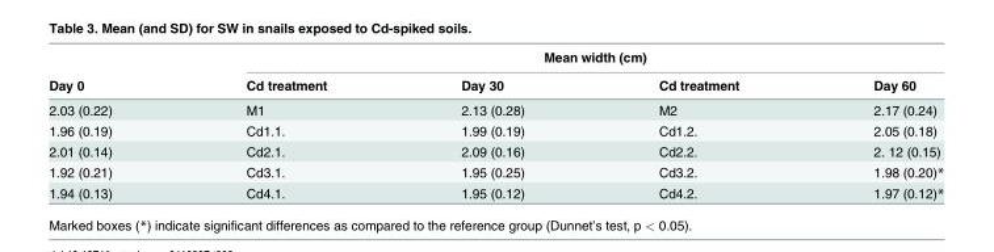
<table><thead><tr><td rowspan="2">Day 0</td><td colspan="4">Mean width (cm)</td></tr><tr><td>Cd treatment</td><td>Day 30</td><td>Cd treatment</td><td>Day 60</td></tr></thead><tbody><tr><td>2.03 (0.22)</td><td>M1</td><td>2.13 (0.28)</td><td>M2</td><td>2.17 (0.24)</td></tr><tr><td>1.96 (0.19)</td><td>Cd1.1.</td><td>1.99 (0.19)</td><td>Cd1.2.</td><td>2.05 (0.18)</td></tr><tr><td>2.01 (0.14)</td><td>Cd2.1.</td><td>2.09 (0.16)</td><td>Cd2.2.</td><td>2. 12 (0.15)</td></tr><tr><td>1.92 (0.21)</td><td>Cd3.1.</td><td>1.95 (0.25)</td><td>Cd3.2.</td><td>1.98 (0.20)*</td></tr><tr><td>1.94 (0.13)</td><td>Cd4.1.</td><td>1.95 (0.12)</td><td>Cd4.2.</td><td>1.97 (0.12)*</td></tr></tbody></table>